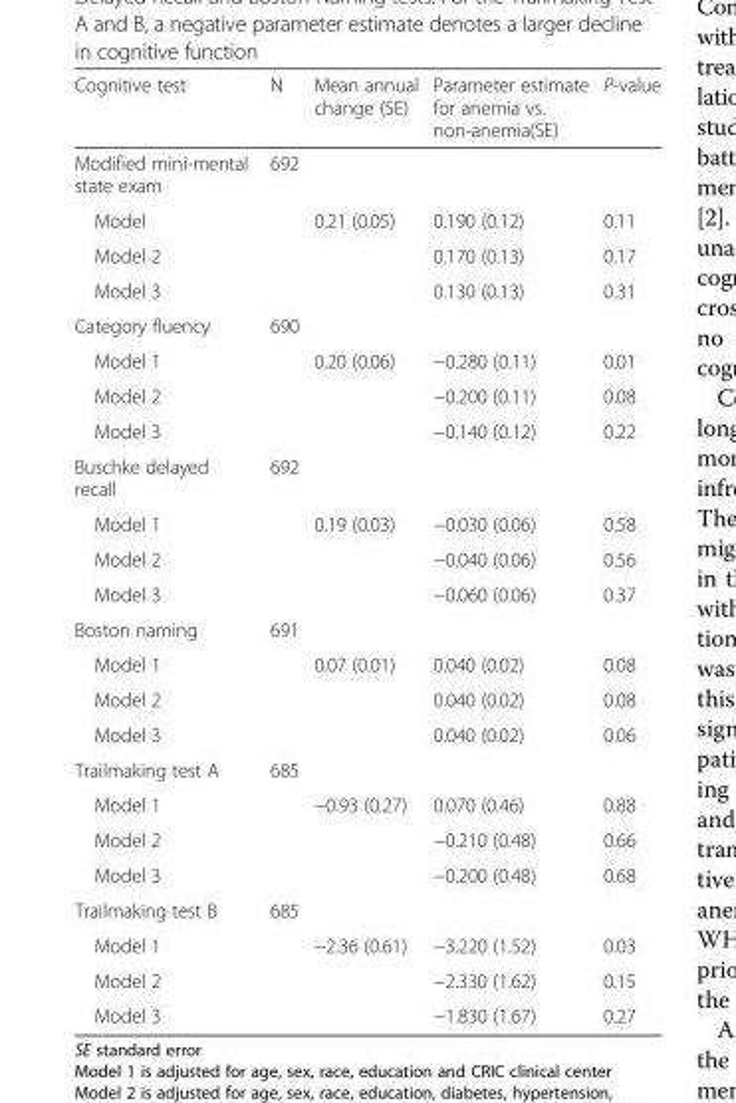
<table><thead><tr><td>Cognitive test</td><td>N</td><td>Mean annual change (SE)</td><td>Parameter estimate for anemia vs. non-anemia(SE)</td><td>P-value</td></tr></thead><tbody><tr><td>Modified mini-mental state exam</td><td>692</td><td></td><td></td><td></td></tr><tr><td>Model</td><td></td><td>0.21 (0.05)</td><td>0.190 (0.12)</td><td>0.11</td></tr><tr><td>Model 2</td><td></td><td></td><td>0.170 (0.13)</td><td>0.17</td></tr><tr><td>Model 3</td><td></td><td></td><td>0.130 (0.13)</td><td>0.31</td></tr><tr><td>Category fluency</td><td>690</td><td></td><td></td><td></td></tr><tr><td>Model 1</td><td></td><td>0.20 (0.06)</td><td>−0.280 (0.11)</td><td>0.01</td></tr><tr><td>Model 2</td><td></td><td></td><td>−0.200 (0.11)</td><td>0.08</td></tr><tr><td>Model 3</td><td></td><td></td><td>−0.140 (0.12)</td><td>0.22</td></tr><tr><td>Buschke delayed recall</td><td>692</td><td></td><td></td><td></td></tr><tr><td>Model 1</td><td></td><td>0.19 (0.03)</td><td>−0.030 (0.06)</td><td>0.58</td></tr><tr><td>Model 2</td><td></td><td></td><td>−0.040 (0.06)</td><td>0.56</td></tr><tr><td>Model 3</td><td></td><td></td><td>−0.060 (0.06)</td><td>0.37</td></tr><tr><td>Boston naming</td><td>691</td><td></td><td></td><td></td></tr><tr><td>Model 1</td><td></td><td>0.07 (0.01)</td><td>0.040 (0.02)</td><td>0.08</td></tr><tr><td>Model 2</td><td></td><td></td><td>0.040 (0.02)</td><td>0.08</td></tr><tr><td>Model 3</td><td></td><td></td><td>0.040 (0.02)</td><td>0.06</td></tr><tr><td>Trailmaking test A</td><td>685</td><td></td><td></td><td></td></tr><tr><td>Model 1</td><td></td><td>−0.93 (0.27)</td><td>0.070 (0.46)</td><td>0.88</td></tr><tr><td>Model 2</td><td></td><td></td><td>−0.210 (0.48)</td><td>0.66</td></tr><tr><td>Model 3</td><td></td><td></td><td>−0.200 (0.48)</td><td>0.68</td></tr><tr><td>Trailmaking test B</td><td>685</td><td></td><td></td><td></td></tr><tr><td>Model 1</td><td></td><td>−2.36 (0.61)</td><td>−3.220 (1.52)</td><td>0.03</td></tr><tr><td>Model 2</td><td></td><td></td><td>−2.330 (1.62)</td><td>0.15</td></tr><tr><td>Model 3</td><td></td><td></td><td>−1.830 (1.67)</td><td>0.27</td></tr></tbody></table>